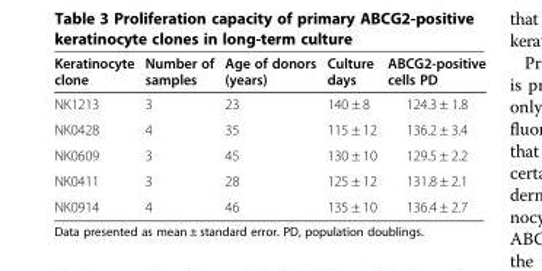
<table><thead><tr><td>Keratinocyte clone</td><td>Number of samples</td><td>Age of donors (years)</td><td>Culture days</td><td>ABCG2-positive cells PD</td></tr></thead><tbody><tr><td>NK1213</td><td>3</td><td>23</td><td>140 ± 8</td><td>124.3 ± 1.8</td></tr><tr><td>NK0428</td><td>4</td><td>35</td><td>115 ± 12</td><td>136.2 ± 3.4</td></tr><tr><td>NK0609</td><td>3</td><td>45</td><td>130 ± 10</td><td>129.5 ± 2.2</td></tr><tr><td>NK0411</td><td>3</td><td>28</td><td>125 ± 12</td><td>131.8 ± 2.1</td></tr><tr><td>NK0914</td><td>4</td><td>46</td><td>135 ± 10</td><td>136.4 ± 2.7</td></tr></tbody></table>